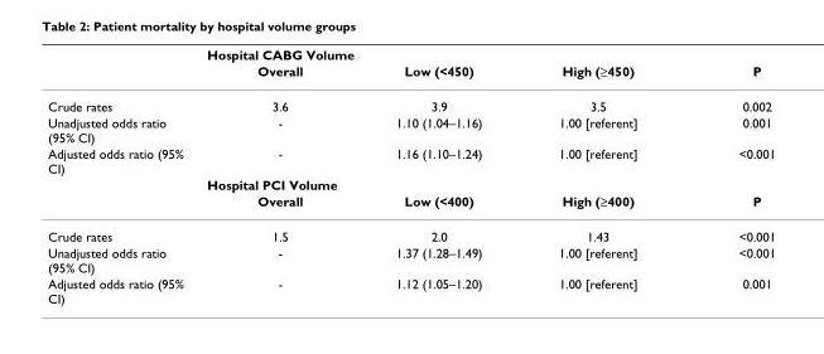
<table><thead><tr><td rowspan="2"></td><td colspan="4">Hospital CABG Volume</td></tr><tr><td>Overall</td><td>Low (&lt;450)</td><td>High (≥450)</td><td>P</td></tr></thead><tbody><tr><td>Crude rates</td><td>3.6</td><td>3.9</td><td>3.5</td><td>0.002</td></tr><tr><td>Unadjusted odds ratio (95% CI)</td><td>-</td><td>1.10 (1.04–1.16)</td><td>1.00 [referent]</td><td>0.001</td></tr><tr><td rowspan="3">Adjusted odds ratio (95% CI)</td><td>-</td><td>1.16 (1.10–1.24)</td><td>1.00 [referent]</td><td>&lt;0.001</td></tr><tr><td colspan="4">Hospital PCI Volume</td></tr><tr><td>Overall</td><td>Low (&lt;400)</td><td>High (≥400)</td><td>P</td></tr><tr><td>Crude rates</td><td>1.5</td><td>2.0</td><td>1.43</td><td>&lt;0.001</td></tr><tr><td>Unadjusted odds ratio (95% CI)</td><td>-</td><td>1.37 (1.28–1.49)</td><td>1.00 [referent]</td><td>&lt;0.001</td></tr><tr><td>Adjusted odds ratio (95% CI)</td><td>-</td><td>1.12 (1.05–1.20)</td><td>1.00 [referent]</td><td>0.001</td></tr></tbody></table>